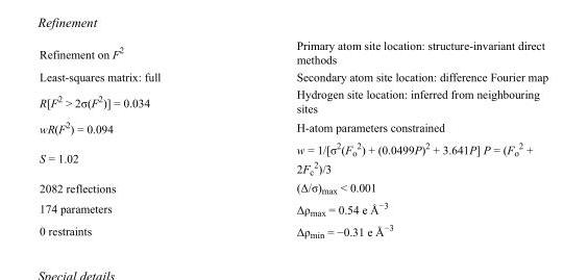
<table><tbody><tr><td>Refinement on F<sup>2</sup></td><td>Primary atom site location: structure-invariant direct methods</td></tr><tr><td>Least-squares matrix: full</td><td>Secondary atom site location: difference Fourier map</td></tr><tr><td>R[F<sup>2</sup> &gt; 2σ(F<sup>2</sup>)] = 0.034</td><td>Hydrogen site location: inferred from neighbouring sites</td></tr><tr><td>wR(F<sup>2</sup>) = 0.094</td><td>H-atom parameters constrained</td></tr><tr><td>S = 1.02</td><td>w = 1/[σ<sup>2</sup>(F<sub>o</sub> <sup>2</sup>) + (0.0499P)<sup>2</sup> + 3.641P] P = (F<sub>o</sub> <sup>2</sup> + 2F<sub>c</sub> <sup>2</sup>)/3</td></tr><tr><td>2082 reflections</td><td>(Δ/σ)<sub>max</sub> &lt; 0.001</td></tr><tr><td>174 parameters</td><td>Δρ<sub>max</sub> = 0.54 e Å<sup>−3</sup></td></tr><tr><td>0 restraints</td><td>Δρ<sub>min</sub> = −0.31 e Å<sup>−3</sup></td></tr></tbody></table>